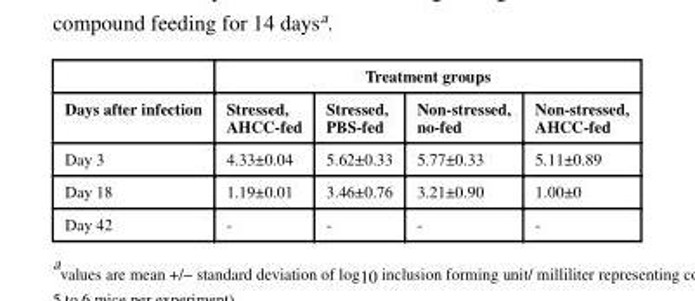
<table><thead><tr><td rowspan="2">Days after infection</td><td colspan="4">Treatment groups</td></tr><tr><td>Stressed, AHCC-fed</td><td>Stressed, PBS-fed</td><td>Non-stressed, no-fed</td><td>Non-stressed, AHCC-fed</td></tr></thead><tbody><tr><td>Day 3</td><td>4.33±0.04</td><td>5.62±0.33</td><td>5.77±0.33</td><td>5.11±0.89</td></tr><tr><td>Day 18</td><td>1.19±0.01</td><td>3.46±0.76</td><td>3.21±0.90</td><td>1.00±0</td></tr><tr><td>Day 42</td><td>-</td><td>-</td><td>-</td><td>-</td></tr></tbody></table>